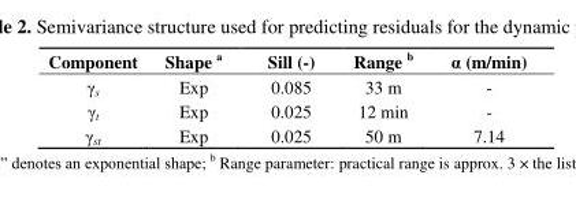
<table><thead><tr><td>Component</td><td>Shape <sup>a</sup></td><td>Sill (-)</td><td>Range <sup>b</sup></td><td>α (m/min)</td></tr></thead><tbody><tr><td>γ<sub>s</sub></td><td>Exp</td><td>0.085</td><td>33 m</td><td>-</td></tr><tr><td>γ<sub>t</sub></td><td>Exp</td><td>0.025</td><td>12 min</td><td>-</td></tr><tr><td>γ<sub>st</sub></td><td>Exp</td><td>0.025</td><td>50 m</td><td>7.14</td></tr></tbody></table>